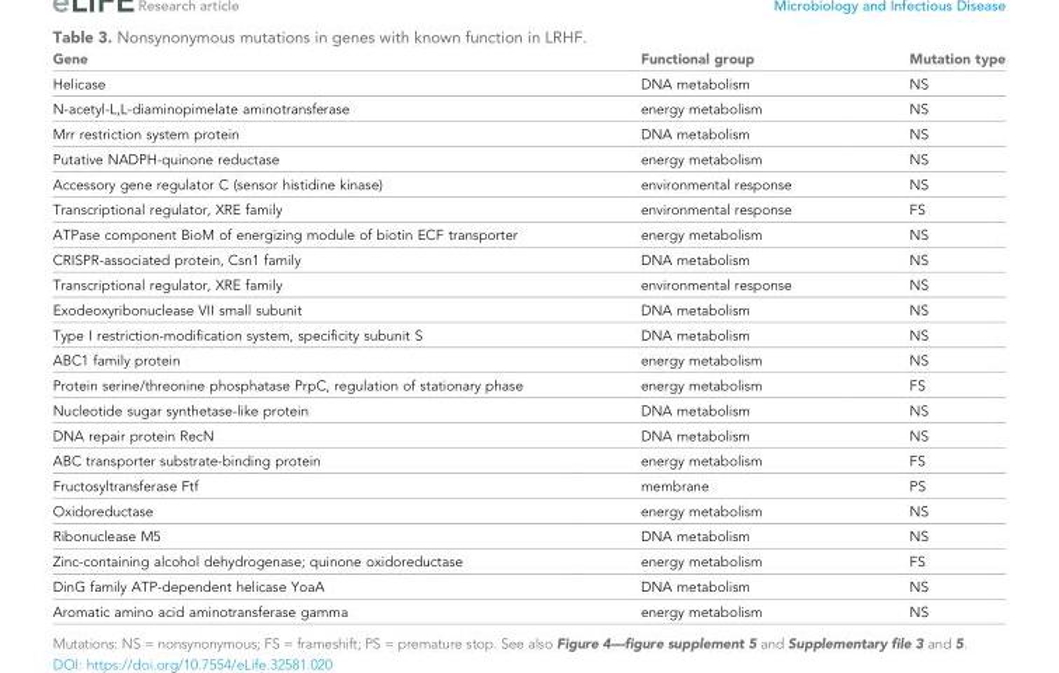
<table><thead><tr><td>Gene</td><td>Functional group</td><td>Mutation type</td></tr></thead><tbody><tr><td>Helicase</td><td>DNA metabolism</td><td>NS</td></tr><tr><td>N-acetyl-L,L-diaminopimelate aminotransferase</td><td>energy metabolism</td><td>NS</td></tr><tr><td>Mrr restriction system protein</td><td>DNA metabolism</td><td>NS</td></tr><tr><td>Putative NADPH-quinone reductase</td><td>energy metabolism</td><td>NS</td></tr><tr><td>Accessory gene regulator C (sensor histidine kinase)</td><td>environmental response</td><td>NS</td></tr><tr><td>Transcriptional regulator, XRE family</td><td>environmental response</td><td>FS</td></tr><tr><td>ATPase component BioM of energizing module of biotin ECF transporter</td><td>energy metabolism</td><td>NS</td></tr><tr><td>CRISPR-associated protein, Csn1 family</td><td>DNA metabolism</td><td>NS</td></tr><tr><td>Transcriptional regulator, XRE family</td><td>environmental response</td><td>NS</td></tr><tr><td>Exodeoxyribonuclease VII small subunit</td><td>DNA metabolism</td><td>NS</td></tr><tr><td>Type I restriction-modification system, specificity subunit S</td><td>DNA metabolism</td><td>NS</td></tr><tr><td>ABC1 family protein</td><td>energy metabolism</td><td>NS</td></tr><tr><td>Protein serine/threonine phosphatase PrpC, regulation of stationary phase</td><td>energy metabolism</td><td>FS</td></tr><tr><td>Nucleotide sugar synthetase-like protein</td><td>DNA metabolism</td><td>NS</td></tr><tr><td>DNA repair protein RecN</td><td>DNA metabolism</td><td>NS</td></tr><tr><td>ABC transporter substrate-binding protein</td><td>energy metabolism</td><td>FS</td></tr><tr><td>Fructosyltransferase Ftf</td><td>membrane</td><td>PS</td></tr><tr><td>Oxidoreductase</td><td>energy metabolism</td><td>NS</td></tr><tr><td>Ribonuclease M5</td><td>DNA metabolism</td><td>NS</td></tr><tr><td>Zinc-containing alcohol dehydrogenase; quinone oxidoreductase</td><td>energy metabolism</td><td>FS</td></tr><tr><td>DinG family ATP-dependent helicase YoaA</td><td>DNA metabolism</td><td>NS</td></tr><tr><td>Aromatic amino acid aminotransferase gamma</td><td>energy metabolism</td><td>NS</td></tr></tbody></table>